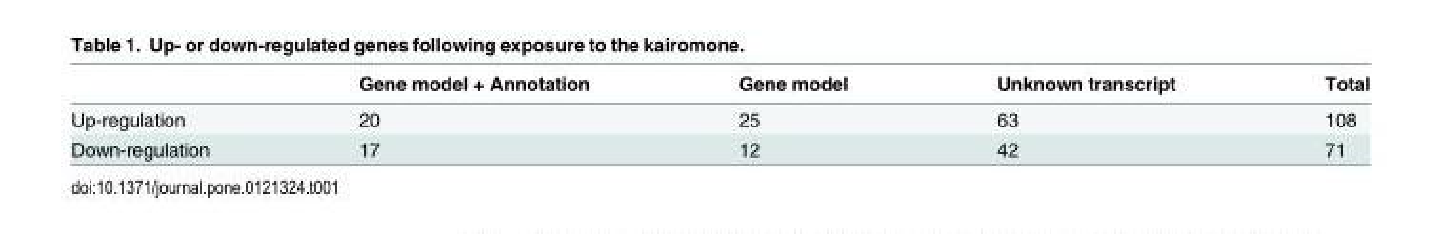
<table><thead><tr><td></td><td>Gene model + Annotation</td><td>Gene model</td><td>Unknown transcript</td><td>Total</td></tr></thead><tbody><tr><td>Up-regulation</td><td>20</td><td>25</td><td>63</td><td>108</td></tr><tr><td>Down-regulation</td><td>17</td><td>12</td><td>42</td><td>71</td></tr></tbody></table>